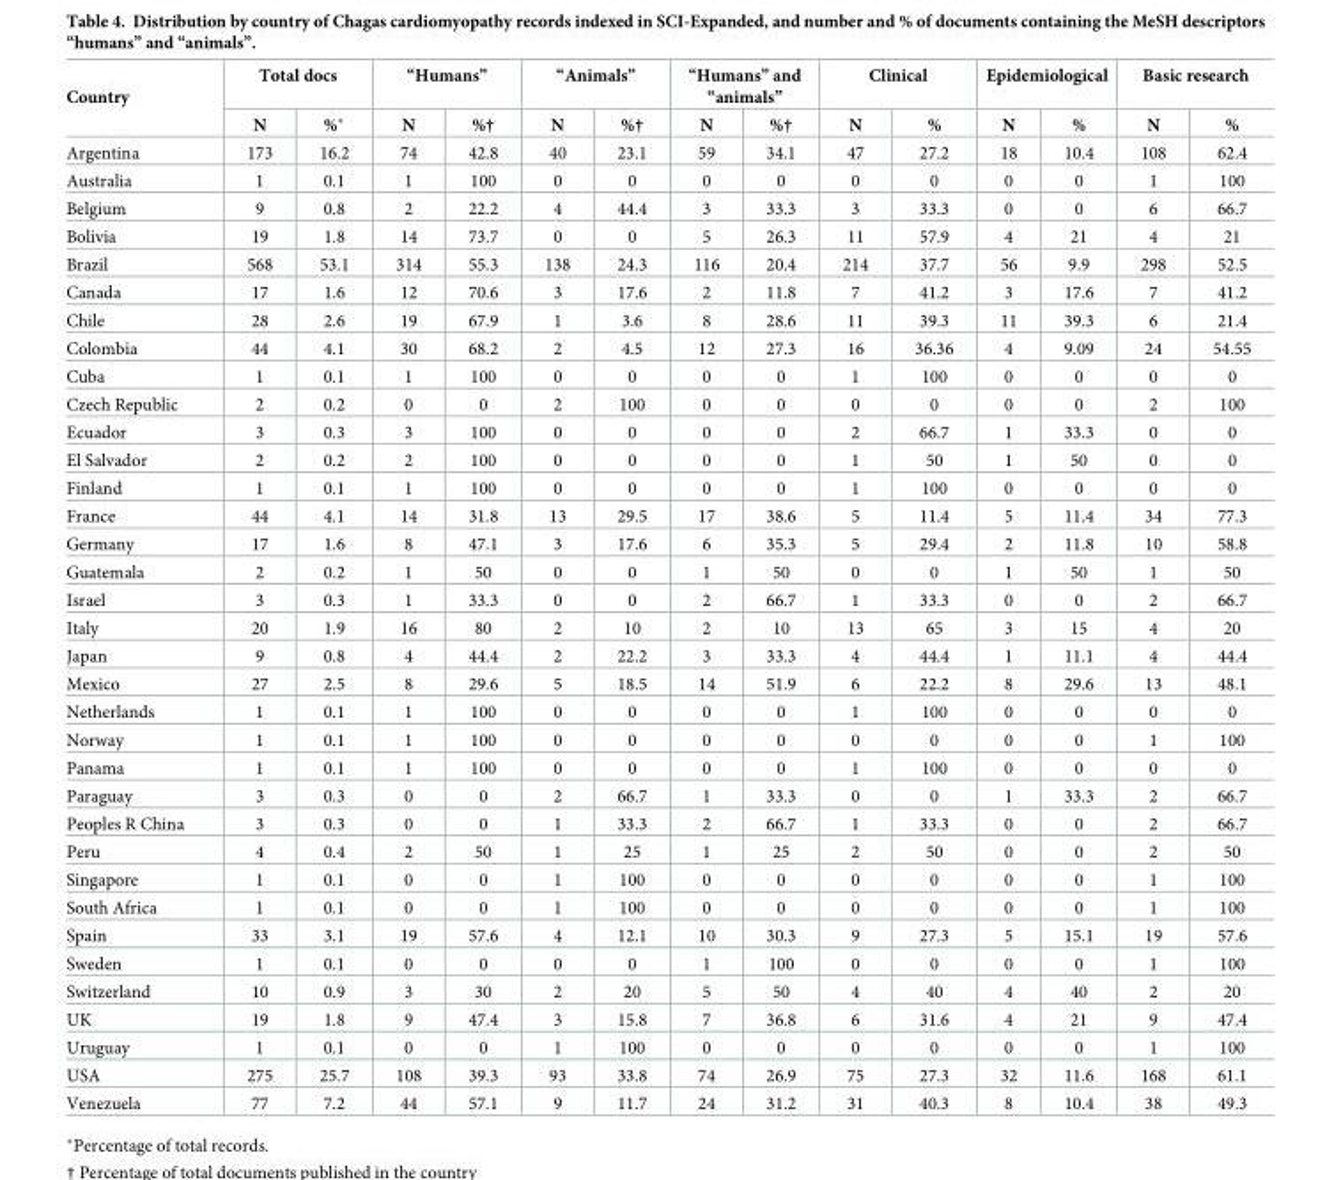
<table><thead><tr><td rowspan="2">Country</td><td colspan="2">Total docs</td><td colspan="2">“Humans”</td><td colspan="2">“Animals”</td><td colspan="2">“Humans” and “animals”</td><td colspan="2">Clinical</td><td colspan="2">Epidemiological</td><td colspan="2">Basic research</td></tr><tr><td>N</td><td>%*</td><td>N</td><td>%†</td><td>N</td><td>%†</td><td>N</td><td>%†</td><td>N</td><td>%</td><td>N</td><td>%</td><td>N</td><td>%</td></tr></thead><tbody><tr><td>Argentina</td><td>173</td><td>16.2</td><td>74</td><td>42.8</td><td>40</td><td>23.1</td><td>59</td><td>34.1</td><td>47</td><td>27.2</td><td>18</td><td>10.4</td><td>108</td><td>62.4</td></tr><tr><td>Australia</td><td>1</td><td>0.1</td><td>1</td><td>100</td><td>0</td><td>0</td><td>0</td><td>0</td><td>0</td><td>0</td><td>0</td><td>0</td><td>1</td><td>100</td></tr><tr><td>Belgium</td><td>9</td><td>0.8</td><td>2</td><td>22.2</td><td>4</td><td>44.4</td><td>3</td><td>33.3</td><td>3</td><td>33.3</td><td>0</td><td>0</td><td>6</td><td>66.7</td></tr><tr><td>Bolivia</td><td>19</td><td>1.8</td><td>14</td><td>73.7</td><td>0</td><td>0</td><td>5</td><td>26.3</td><td>11</td><td>57.9</td><td>4</td><td>21</td><td>4</td><td>21</td></tr><tr><td>Brazil</td><td>568</td><td>53.1</td><td>314</td><td>55.3</td><td>138</td><td>24.3</td><td>116</td><td>20.4</td><td>214</td><td>37.7</td><td>56</td><td>9.9</td><td>298</td><td>52.5</td></tr><tr><td>Canada</td><td>17</td><td>1.6</td><td>12</td><td>70.6</td><td>3</td><td>17.6</td><td>2</td><td>11.8</td><td>7</td><td>41.2</td><td>3</td><td>17.6</td><td>7</td><td>41.2</td></tr><tr><td>Chile</td><td>28</td><td>2.6</td><td>19</td><td>67.9</td><td>1</td><td>3.6</td><td>8</td><td>28.6</td><td>11</td><td>39.3</td><td>11</td><td>39.3</td><td>6</td><td>21.4</td></tr><tr><td>Colombia</td><td>44</td><td>4.1</td><td>30</td><td>68.2</td><td>2</td><td>4.5</td><td>12</td><td>27.3</td><td>16</td><td>36.36</td><td>4</td><td>9.09</td><td>24</td><td>54.55</td></tr><tr><td>Cuba</td><td>1</td><td>0.1</td><td>1</td><td>100</td><td>0</td><td>0</td><td>0</td><td>0</td><td>1</td><td>100</td><td>0</td><td>0</td><td>0</td><td>0</td></tr><tr><td>Czech Republic</td><td>2</td><td>0.2</td><td>0</td><td>0</td><td>2</td><td>100</td><td>0</td><td>0</td><td>0</td><td>0</td><td>0</td><td>0</td><td>2</td><td>100</td></tr><tr><td>Ecuador</td><td>3</td><td>0.3</td><td>3</td><td>100</td><td>0</td><td>0</td><td>0</td><td>0</td><td>2</td><td>66.7</td><td>1</td><td>33.3</td><td>0</td><td>0</td></tr><tr><td>El Salvador</td><td>2</td><td>0.2</td><td>2</td><td>100</td><td>0</td><td>0</td><td>0</td><td>0</td><td>1</td><td>50</td><td>1</td><td>50</td><td>0</td><td>0</td></tr><tr><td>Finland</td><td>1</td><td>0.1</td><td>1</td><td>100</td><td>0</td><td>0</td><td>0</td><td>0</td><td>1</td><td>100</td><td>0</td><td>0</td><td>0</td><td>0</td></tr><tr><td>France</td><td>44</td><td>4.1</td><td>14</td><td>31.8</td><td>13</td><td>29.5</td><td>17</td><td>38.6</td><td>5</td><td>11.4</td><td>5</td><td>11.4</td><td>34</td><td>77.3</td></tr><tr><td>Germany</td><td>17</td><td>1.6</td><td>8</td><td>47.1</td><td>3</td><td>17.6</td><td>6</td><td>35.3</td><td>5</td><td>29.4</td><td>2</td><td>11.8</td><td>10</td><td>58.8</td></tr><tr><td>Guatemala</td><td>2</td><td>0.2</td><td>1</td><td>50</td><td>0</td><td>0</td><td>1</td><td>50</td><td>0</td><td>0</td><td>1</td><td>50</td><td>1</td><td>50</td></tr><tr><td>Israel</td><td>3</td><td>0.3</td><td>1</td><td>33.3</td><td>0</td><td>0</td><td>2</td><td>66.7</td><td>1</td><td>33.3</td><td>0</td><td>0</td><td>2</td><td>66.7</td></tr><tr><td>Italy</td><td>20</td><td>1.9</td><td>16</td><td>80</td><td>2</td><td>10</td><td>2</td><td>10</td><td>13</td><td>65</td><td>3</td><td>15</td><td>4</td><td>20</td></tr><tr><td>Japan</td><td>9</td><td>0.8</td><td>4</td><td>44.4</td><td>2</td><td>22.2</td><td>3</td><td>33.3</td><td>4</td><td>44.4</td><td>1</td><td>11.1</td><td>4</td><td>44.4</td></tr><tr><td>Mexico</td><td>27</td><td>2.5</td><td>8</td><td>29.6</td><td>5</td><td>18.5</td><td>14</td><td>51.9</td><td>6</td><td>22.2</td><td>8</td><td>29.6</td><td>13</td><td>48.1</td></tr><tr><td>Netherlands</td><td>1</td><td>0.1</td><td>1</td><td>100</td><td>0</td><td>0</td><td>0</td><td>0</td><td>1</td><td>100</td><td>0</td><td>0</td><td>0</td><td>0</td></tr><tr><td>Norway</td><td>1</td><td>0.1</td><td>1</td><td>100</td><td>0</td><td>0</td><td>0</td><td>0</td><td>0</td><td>0</td><td>0</td><td>0</td><td>1</td><td>100</td></tr><tr><td>Panama</td><td>1</td><td>0.1</td><td>1</td><td>100</td><td>0</td><td>0</td><td>0</td><td>0</td><td>1</td><td>100</td><td>0</td><td>0</td><td>0</td><td>0</td></tr><tr><td>Paraguay</td><td>3</td><td>0.3</td><td>0</td><td>0</td><td>2</td><td>66.7</td><td>1</td><td>33.3</td><td>0</td><td>0</td><td>1</td><td>33.3</td><td>2</td><td>66.7</td></tr><tr><td>Peoples R China</td><td>3</td><td>0.3</td><td>0</td><td>0</td><td>1</td><td>33.3</td><td>2</td><td>66.7</td><td>1</td><td>33.3</td><td>0</td><td>0</td><td>2</td><td>66.7</td></tr><tr><td>Peru</td><td>4</td><td>0.4</td><td>2</td><td>50</td><td>1</td><td>25</td><td>1</td><td>25</td><td>2</td><td>50</td><td>0</td><td>0</td><td>2</td><td>50</td></tr><tr><td>Singapore</td><td>1</td><td>0.1</td><td>0</td><td>0</td><td>1</td><td>100</td><td>0</td><td>0</td><td>0</td><td>0</td><td>0</td><td>0</td><td>1</td><td>100</td></tr><tr><td>South Africa</td><td>1</td><td>0.1</td><td>0</td><td>0</td><td>1</td><td>100</td><td>0</td><td>0</td><td>0</td><td>0</td><td>0</td><td>0</td><td>1</td><td>100</td></tr><tr><td>Spain</td><td>33</td><td>3.1</td><td>19</td><td>57.6</td><td>4</td><td>12.1</td><td>10</td><td>30.3</td><td>9</td><td>27.3</td><td>5</td><td>15.1</td><td>19</td><td>57.6</td></tr><tr><td>Sweden</td><td>1</td><td>0.1</td><td>0</td><td>0</td><td>0</td><td>0</td><td>1</td><td>100</td><td>0</td><td>0</td><td>0</td><td>0</td><td>1</td><td>100</td></tr><tr><td>Switzerland</td><td>10</td><td>0.9</td><td>3</td><td>30</td><td>2</td><td>20</td><td>5</td><td>50</td><td>4</td><td>40</td><td>4</td><td>40</td><td>2</td><td>20</td></tr><tr><td>UK</td><td>19</td><td>1.8</td><td>9</td><td>47.4</td><td>3</td><td>15.8</td><td>7</td><td>36.8</td><td>6</td><td>31.6</td><td>4</td><td>21</td><td>9</td><td>47.4</td></tr><tr><td>Uruguay</td><td>1</td><td>0.1</td><td>0</td><td>0</td><td>1</td><td>100</td><td>0</td><td>0</td><td>0</td><td>0</td><td>0</td><td>0</td><td>1</td><td>100</td></tr><tr><td>USA</td><td>275</td><td>25.7</td><td>108</td><td>39.3</td><td>93</td><td>33.8</td><td>74</td><td>26.9</td><td>75</td><td>27.3</td><td>32</td><td>11.6</td><td>168</td><td>61.1</td></tr><tr><td>Venezuela</td><td>77</td><td>7.2</td><td>44</td><td>57.1</td><td>9</td><td>11.7</td><td>24</td><td>31.2</td><td>31</td><td>40.3</td><td>8</td><td>10.4</td><td>38</td><td>49.3</td></tr></tbody></table>